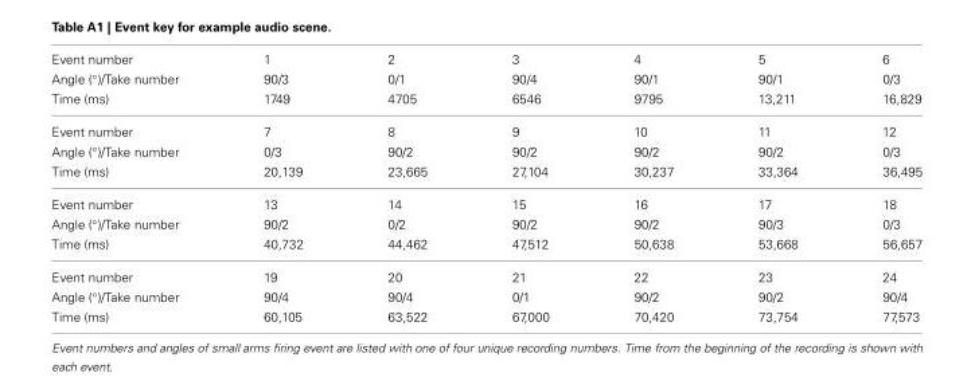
<table><thead><tr><td rowspan="3">Event number Angle (◦)/Take number Time (ms)</td><td rowspan="3">1 90/3 1749</td><td rowspan="3">2 0/1 4705</td><td rowspan="3">3 90/4 6546</td><td rowspan="3">4 90/1 9795</td><td rowspan="3">5 90/1 13,211</td><td rowspan="3">6 0/3 16,829</td></tr><tr></tr><tr></tr></thead><tbody><tr><td>Event number</td><td>7</td><td>8</td><td>9</td><td>10</td><td>11</td><td>12</td></tr><tr><td>Angle (◦)/Take number</td><td>0/3</td><td>90/2</td><td>90/2</td><td>90/2</td><td>90/2</td><td>0/3</td></tr><tr><td>Time (ms)</td><td>20,139</td><td>23,665</td><td>27,104</td><td>30,237</td><td>33,364</td><td>36,495</td></tr><tr><td>Event number</td><td>13</td><td>14</td><td>15</td><td>16</td><td>17</td><td>18</td></tr><tr><td>Angle (◦)/Take number</td><td>90/2</td><td>0/2</td><td>90/2</td><td>90/2</td><td>90/3</td><td>0/3</td></tr><tr><td>Time (ms)</td><td>40,732</td><td>44,462</td><td>47,512</td><td>50,638</td><td>53,668</td><td>56,657</td></tr><tr><td>Event number</td><td>19</td><td>20</td><td>21</td><td>22</td><td>23</td><td>24</td></tr><tr><td>Angle (◦)/Take number</td><td>90/4</td><td>90/4</td><td>0/1</td><td>90/2</td><td>90/2</td><td>90/4</td></tr><tr><td>Time (ms)</td><td>60,105</td><td>63,522</td><td>67,000</td><td>70,420</td><td>73,754</td><td>77,573</td></tr></tbody></table>